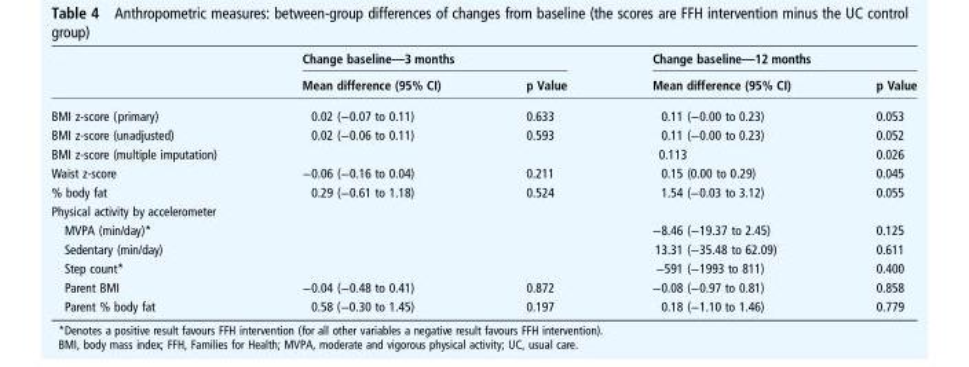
<table><thead><tr><td rowspan="2"></td><td colspan="2">Change baseline—3 months</td><td colspan="2">Change baseline—12 months</td></tr><tr><td>Mean difference (95% CI)</td><td>p Value</td><td>Mean difference (95% CI)</td><td>p Value</td></tr></thead><tbody><tr><td>BMI z-score (primary)</td><td>0.02 (−0.07 to 0.11)</td><td>0.633</td><td>0.11 (−0.00 to 0.23)</td><td>0.053</td></tr><tr><td>BMI z-score (unadjusted)</td><td>0.02 (−0.06 to 0.11)</td><td>0.593</td><td>0.11 (−0.00 to 0.23)</td><td>0.052</td></tr><tr><td>BMI z-score (multiple imputation)</td><td></td><td></td><td>0.113</td><td>0.026</td></tr><tr><td>Waist z-score</td><td>−0.06 (−0.16 to 0.04)</td><td>0.211</td><td>0.15 (0.00 to 0.29)</td><td>0.045</td></tr><tr><td>% body fat</td><td>0.29 (−0.61 to 1.18)</td><td>0.524</td><td>1.54 (−0.03 to 3.12)</td><td>0.055</td></tr><tr><td colspan="5">Physical activity by accelerometer</td></tr><tr><td>MVPA (min/day)*</td><td></td><td></td><td>−8.46 (−19.37 to 2.45)</td><td>0.125</td></tr><tr><td>Sedentary (min/day)</td><td></td><td></td><td>13.31 (−35.48 to 62.09)</td><td>0.611</td></tr><tr><td>Step count*</td><td></td><td></td><td>−591 (−1993 to 811)</td><td>0.400</td></tr><tr><td>Parent BMI</td><td>−0.04 (−0.48 to 0.41)</td><td>0.872</td><td>−0.08 (−0.97 to 0.81)</td><td>0.858</td></tr><tr><td>Parent % body fat</td><td>0.58 (−0.30 to 1.45)</td><td>0.197</td><td>0.18 (−1.10 to 1.46)</td><td>0.779</td></tr></tbody></table>